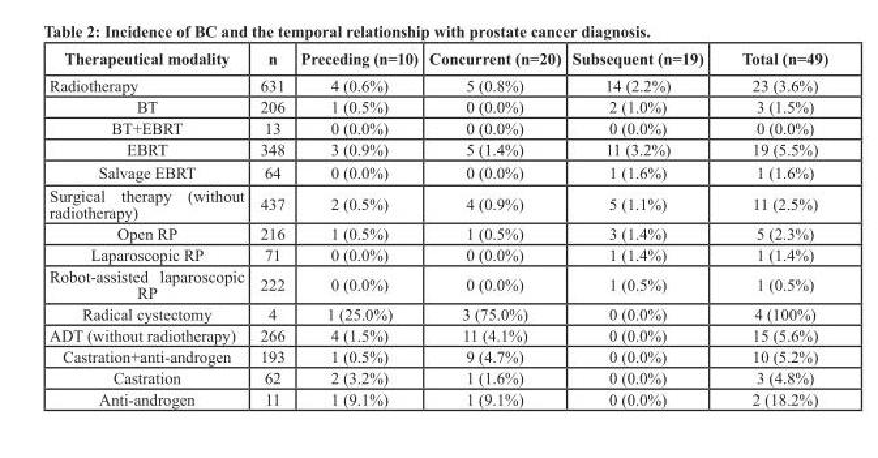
<table><thead><tr><td>Therapeutical modality</td><td>n</td><td>Preceding (n=10)</td><td>Concurrent (n=20)</td><td>Subsequent (n=19)</td><td>Total (n=49)</td></tr></thead><tbody><tr><td>Radiotherapy</td><td>631</td><td>4 (0.6%)</td><td>5 (0.8%)</td><td>14 (2.2%)</td><td>23 (3.6%)</td></tr><tr><td>BT</td><td>206</td><td>1 (0.5%)</td><td>0 (0.0%)</td><td>2 (1.0%)</td><td>3 (1.5%)</td></tr><tr><td>BT+EBRT</td><td>13</td><td>0 (0.0%)</td><td>0 (0.0%)</td><td>0 (0.0%)</td><td>0 (0.0%)</td></tr><tr><td>EBRT</td><td>348</td><td>3 (0.9%)</td><td>5 (1.4%)</td><td>11 (3.2%)</td><td>19 (5.5%)</td></tr><tr><td>Salvage EBRT</td><td>64</td><td>0 (0.0%)</td><td>0 (0.0%)</td><td>1 (1.6%)</td><td>1 (1.6%)</td></tr><tr><td>Surgical therapy (without radiotherapy)</td><td>437</td><td>2 (0.5%)</td><td>4 (0.9%)</td><td>5 (1.1%)</td><td>11 (2.5%)</td></tr><tr><td>Open RP</td><td>216</td><td>1 (0.5%)</td><td>1 (0.5%)</td><td>3 (1.4%)</td><td>5 (2.3%)</td></tr><tr><td>Laparoscopic RP</td><td>71</td><td>0 (0.0%)</td><td>0 (0.0%)</td><td>1 (1.4%)</td><td>1 (1.4%)</td></tr><tr><td>Robot-assisted laparoscopic RP</td><td>222</td><td>0 (0.0%)</td><td>0 (0.0%)</td><td>1 (0.5%)</td><td>1 (0.5%)</td></tr><tr><td>Radical cystectomy</td><td>4</td><td>1 (25.0%)</td><td>3 (75.0%)</td><td>0 (0.0%)</td><td>4 (100%)</td></tr><tr><td>ADT (without radiotherapy)</td><td>266</td><td>4 (1.5%)</td><td>11 (4.1%)</td><td>0 (0.0%)</td><td>15 (5.6%)</td></tr><tr><td>Castration+anti-androgen</td><td>193</td><td>1 (0.5%)</td><td>9 (4.7%)</td><td>0 (0.0%)</td><td>10 (5.2%)</td></tr><tr><td>Castration</td><td>62</td><td>2 (3.2%)</td><td>1 (1.6%)</td><td>0 (0.0%)</td><td>3 (4.8%)</td></tr><tr><td>Anti-androgen</td><td>11</td><td>1 (9.1%)</td><td>1 (9.1%)</td><td>0 (0.0%)</td><td>2 (18.2%)</td></tr></tbody></table>